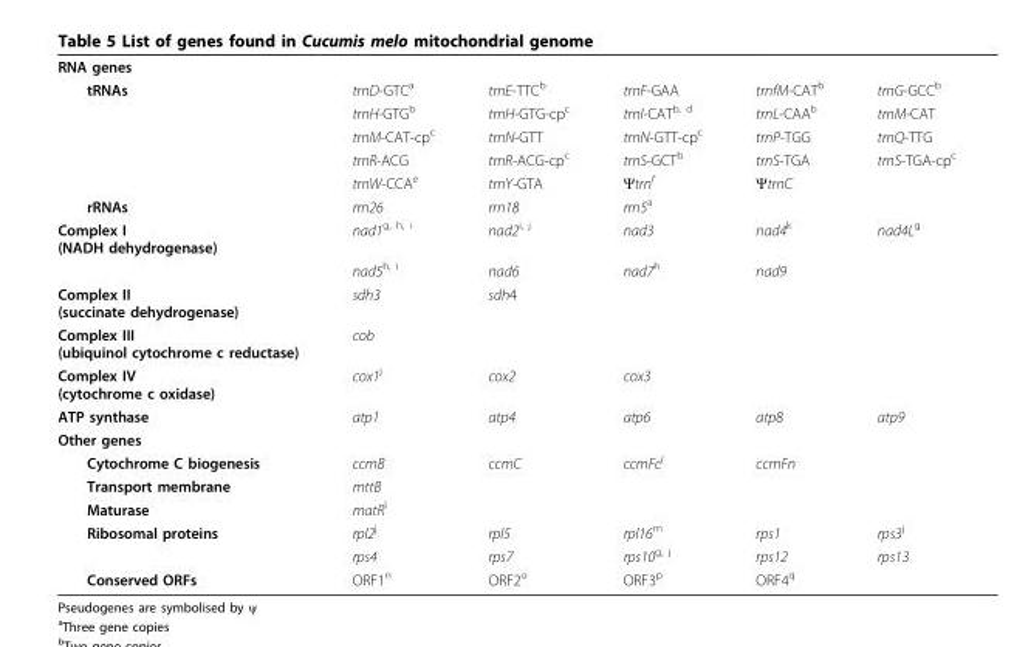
<table><tbody><tr><td colspan="6">RNA genes</td></tr><tr><td rowspan="5">tRNAs</td><td>trnD-GTC<sup>a</sup></td><td>trnE-TTC<sup>b</sup></td><td>trnF-GAA</td><td>trnfM-CAT<sup>b</sup></td><td>trnG-GCC<sup>b</sup></td></tr><tr><td>trnH-GTG<sup>b</sup></td><td>trnH-GTG-cp<sup>c</sup></td><td>trnI-CAT<sup>b, d</sup></td><td>trnL-CAA<sup>b</sup></td><td>trnM-CAT</td></tr><tr><td>trnM-CAT-cp<sup>c</sup></td><td>trnN-GTT</td><td>trnN-GTT-cp<sup>c</sup></td><td>trnP-TGG</td><td>trnQ-TTG</td></tr><tr><td>trnR-ACG</td><td>trnR-ACG-cp<sup>c</sup></td><td>trnS-GCT<sup>b</sup></td><td>trnS-TGA</td><td>trnS-TGA-cp<sup>c</sup></td></tr><tr><td>trnW-CCA<sup>e</sup></td><td>trnY-GTA</td><td>Ψtrn<sup>f</sup></td><td>ΨtrnC</td><td></td></tr><tr><td>rRNAs</td><td>rrn26</td><td>rrn18</td><td>rrn5<sup>a</sup></td><td></td><td></td></tr><tr><td rowspan="2">Complex I (NADH dehydrogenase)</td><td>nad1<sup>g, h, i</sup></td><td>nad2<sup>i, j</sup></td><td>nad3</td><td>nad4<sup>k</sup></td><td>nad4L<sup>g</sup></td></tr><tr><td>nad5<sup>h, i</sup></td><td>nad6</td><td>nad7<sup>h</sup></td><td>nad9</td><td></td></tr><tr><td>Complex II (succinate dehydrogenase)</td><td>sdh3</td><td>sdh4</td><td></td><td></td><td></td></tr><tr><td>Complex III (ubiquinol cytochrome c reductase)</td><td>cob</td><td></td><td></td><td></td><td></td></tr><tr><td>Complex IV (cytochrome c oxidase)</td><td>cox1<sup>j</sup></td><td>cox2</td><td>cox3</td><td></td><td></td></tr><tr><td>ATP synthase</td><td>atp1</td><td>atp4</td><td>atp6</td><td>atp8</td><td>atp9</td></tr><tr><td colspan="6">Other genes</td></tr><tr><td>Cytochrome C biogenesis</td><td>ccmB</td><td>ccmC</td><td>ccmFc<sup>j</sup></td><td>ccmFn</td><td></td></tr><tr><td>Transport membrane</td><td>mttB</td><td></td><td></td><td></td><td></td></tr><tr><td>Maturase</td><td>matR<sup>l</sup></td><td></td><td></td><td></td><td></td></tr><tr><td rowspan="2">Ribosomal proteins</td><td>rpl2<sup>j</sup></td><td>rpl5</td><td>rpl16<sup>m</sup></td><td>rps1</td><td>rps3<sup>j</sup></td></tr><tr><td>rps4</td><td>rps7</td><td>rps10<sup>g, j</sup></td><td>rps12</td><td>rps13</td></tr><tr><td>Conserved ORFs</td><td>ORF1<sup>n</sup></td><td>ORF2<sup>o</sup></td><td>ORF3<sup>p</sup></td><td>ORF4<sup>q</sup></td><td></td></tr></tbody></table>